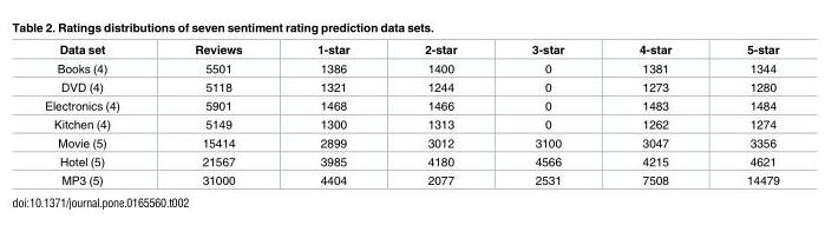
<table><thead><tr><td>Data set</td><td>Reviews</td><td>1-star</td><td>2-star</td><td>3-star</td><td>4-star</td><td>5-star</td></tr></thead><tbody><tr><td>Books (4)</td><td>5501</td><td>1386</td><td>1400</td><td>0</td><td>1381</td><td>1344</td></tr><tr><td>DVD (4)</td><td>5118</td><td>1321</td><td>1244</td><td>0</td><td>1273</td><td>1280</td></tr><tr><td>Electronics (4)</td><td>5901</td><td>1468</td><td>1466</td><td>0</td><td>1483</td><td>1484</td></tr><tr><td>Kitchen (4)</td><td>5149</td><td>1300</td><td>1313</td><td>0</td><td>1262</td><td>1274</td></tr><tr><td>Movie (5)</td><td>15414</td><td>2899</td><td>3012</td><td>3100</td><td>3047</td><td>3356</td></tr><tr><td>Hotel (5)</td><td>21567</td><td>3985</td><td>4180</td><td>4566</td><td>4215</td><td>4621</td></tr><tr><td>MP3 (5)</td><td>31000</td><td>4404</td><td>2077</td><td>2531</td><td>7508</td><td>14479</td></tr></tbody></table>